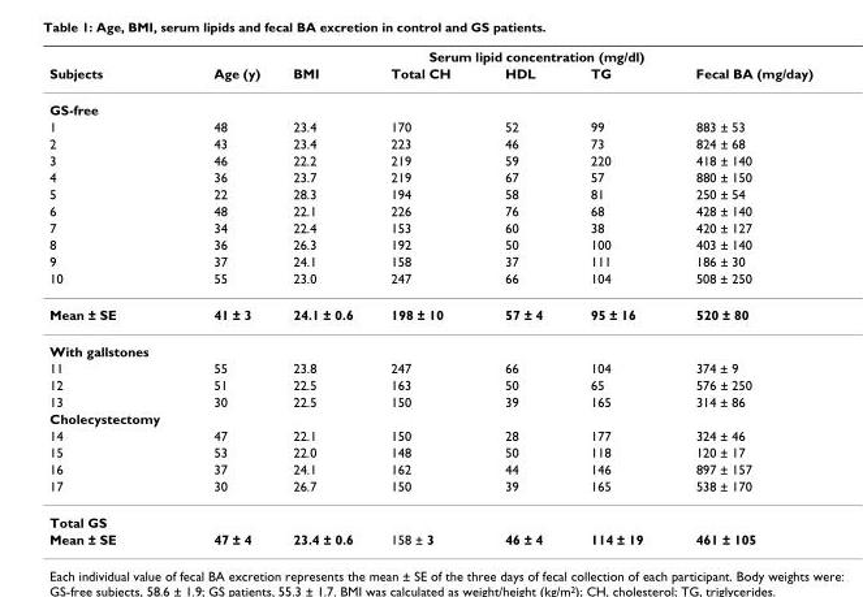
<table><thead><tr><td rowspan="2">Subjects</td><td rowspan="2">Age (y)</td><td rowspan="2">BMI</td><td colspan="3">Serum lipid concentration (mg/dl)</td><td rowspan="2">Fecal BA (mg/day)</td></tr><tr><td>Total CH</td><td>HDL</td><td>TG</td></tr></thead><tbody><tr><td colspan="7">GS-free</td></tr><tr><td>1</td><td>48</td><td>23.4</td><td>170</td><td>52</td><td>99</td><td>883 ± 53</td></tr><tr><td>2</td><td>43</td><td>23.4</td><td>223</td><td>46</td><td>73</td><td>824 ± 68</td></tr><tr><td>3</td><td>46</td><td>22.2</td><td>219</td><td>59</td><td>220</td><td>418 ± 140</td></tr><tr><td>4</td><td>36</td><td>23.7</td><td>219</td><td>67</td><td>57</td><td>880 ± 150</td></tr><tr><td>5</td><td>22</td><td>28.3</td><td>194</td><td>58</td><td>81</td><td>250 ± 54</td></tr><tr><td>6</td><td>48</td><td>22.1</td><td>226</td><td>76</td><td>68</td><td>428 ± 140</td></tr><tr><td>7</td><td>34</td><td>22.4</td><td>153</td><td>60</td><td>38</td><td>420 ± 127</td></tr><tr><td>8</td><td>36</td><td>26.3</td><td>192</td><td>50</td><td>100</td><td>403 ± 140</td></tr><tr><td>9</td><td>37</td><td>24.1</td><td>158</td><td>37</td><td>111</td><td>186 ± 30</td></tr><tr><td>10</td><td>55</td><td>23.0</td><td>247</td><td>66</td><td>104</td><td>508 ± 250</td></tr><tr><td>Mean ± SE</td><td>41 ± 3</td><td>24.1 ± 0.6</td><td>198 ± 10</td><td>57 ± 4</td><td>95 ± 16</td><td>520 ± 80</td></tr><tr><td colspan="7">With gallstones</td></tr><tr><td>11</td><td>55</td><td>23.8</td><td>247</td><td>66</td><td>104</td><td>374 ± 9</td></tr><tr><td>12</td><td>51</td><td>22.5</td><td>163</td><td>50</td><td>65</td><td>576 ± 250</td></tr><tr><td>13</td><td>30</td><td>22.5</td><td>150</td><td>39</td><td>165</td><td>314 ± 86</td></tr><tr><td colspan="7">Cholecystectomy</td></tr><tr><td>14</td><td>47</td><td>22.1</td><td>150</td><td>28</td><td>177</td><td>324 ± 46</td></tr><tr><td>15</td><td>53</td><td>22.0</td><td>148</td><td>50</td><td>118</td><td>120 ± 17</td></tr><tr><td>16</td><td>37</td><td>24.1</td><td>162</td><td>44</td><td>146</td><td>897 ± 157</td></tr><tr><td>17</td><td>30</td><td>26.7</td><td>150</td><td>39</td><td>165</td><td>538 ± 170</td></tr><tr><td colspan="7">Total GS</td></tr><tr><td>Mean ± SE</td><td>47 ± 4</td><td>23.4 ± 0.6</td><td>158 ± 3</td><td>46 ± 4</td><td>114 ± 19</td><td>461 ± 105</td></tr></tbody></table>